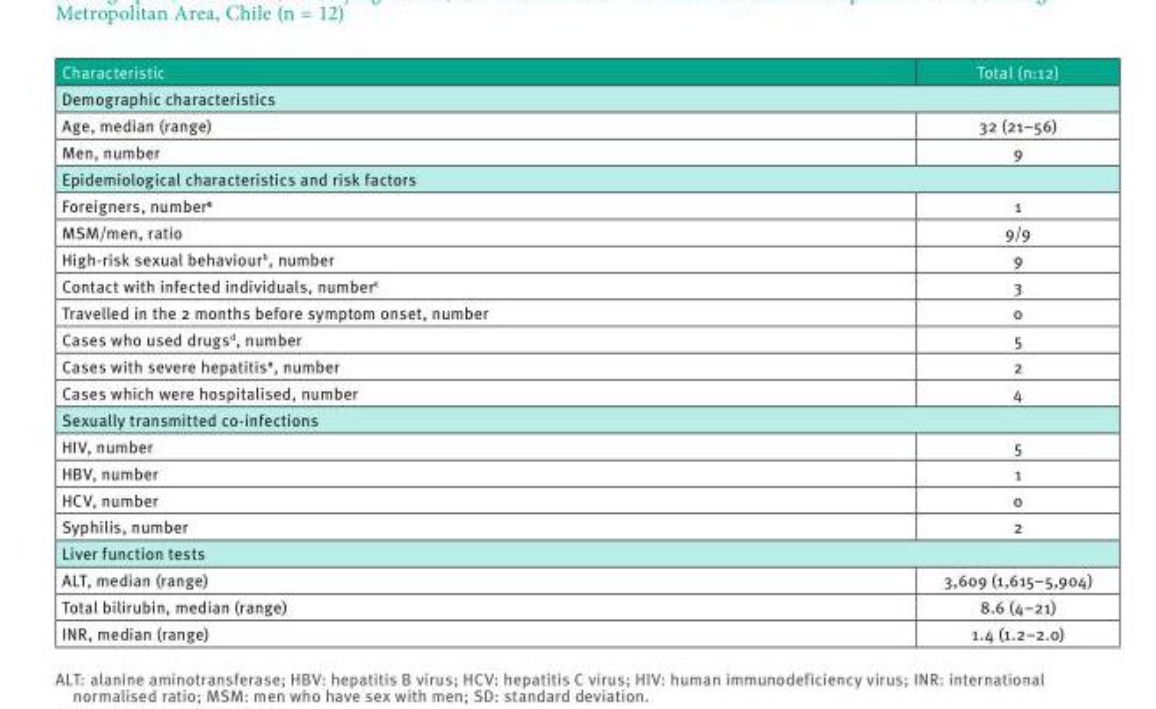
<table><thead><tr><td>Characteristic</td><td>Total (n:12)</td></tr></thead><tbody><tr><td colspan="2">Demographic characteristics</td></tr><tr><td>Age, median (range)</td><td>32 (21–56)</td></tr><tr><td>Men, number</td><td>9</td></tr><tr><td colspan="2">Epidemiological characteristics and risk factors</td></tr><tr><td>Foreigners, number<sup>a</sup></td><td>1</td></tr><tr><td>MSM/men, ratio</td><td>9/9</td></tr><tr><td>High-risk sexual behaviour<sup>b</sup>, number</td><td>9</td></tr><tr><td>Contact with infected individuals, number<sup>c</sup></td><td>3</td></tr><tr><td>Travelled in the 2 months before symptom onset, number</td><td>0</td></tr><tr><td>Cases who used drugs<sup>d</sup>, number</td><td>5</td></tr><tr><td>Cases with severe hepatitis<sup>e</sup>, number</td><td>2</td></tr><tr><td>Cases which were hospitalised, number</td><td>4</td></tr><tr><td colspan="2">Sexually transmitted co-infections</td></tr><tr><td>HIV, number</td><td>5</td></tr><tr><td>HBV, number</td><td>1</td></tr><tr><td>HCV, number</td><td>0</td></tr><tr><td>Syphilis, number</td><td>2</td></tr><tr><td colspan="2">Liver function tests</td></tr><tr><td>ALT, median (range)</td><td>3,609 (1,615–5,904)</td></tr><tr><td>Total bilirubin, median (range)</td><td>8.6 (4–21)</td></tr><tr><td>INR, median (range)</td><td>1.4 (1.2–2.0)</td></tr></tbody></table>